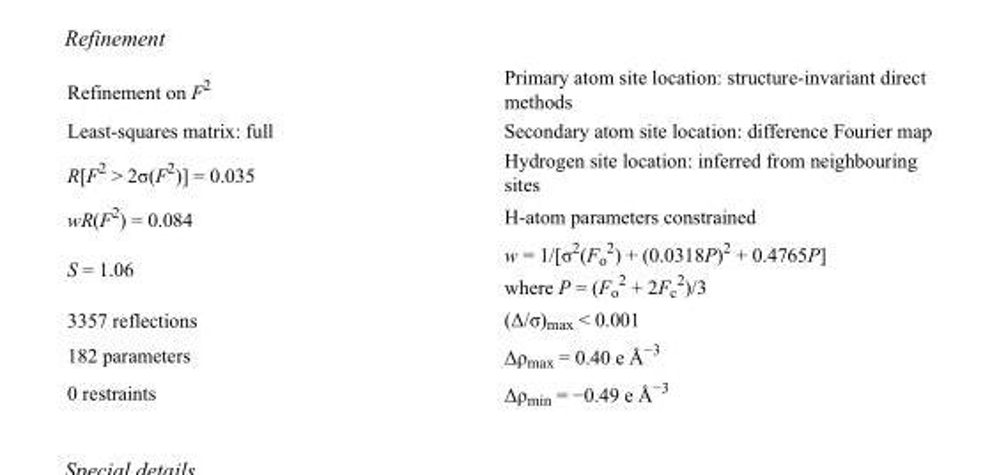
<table><tbody><tr><td>Refinement on F<sup>2</sup></td><td>Primary atom site location: structure-invariant direct methods</td></tr><tr><td>Least-squares matrix: full</td><td>Secondary atom site location: difference Fourier map</td></tr><tr><td>R[F<sup>2</sup> &gt; 2σ(F<sup>2</sup>)] = 0.035</td><td>Hydrogen site location: inferred from neighbouring sites</td></tr><tr><td>wR(F<sup>2</sup>) = 0.084</td><td>H-atom parameters constrained</td></tr><tr><td>S = 1.06</td><td>w = 1/[σ<sup>2</sup>(F<sub>o</sub> <sup>2</sup>) + (0.0318P)<sup>2</sup> + 0.4765P] where P = (F<sub>o</sub> <sup>2</sup> + 2F<sub>c</sub> <sup>2</sup>)/3</td></tr><tr><td>3357 reflections</td><td>(Δ/σ)<sub>max</sub> &lt; 0.001</td></tr><tr><td>182 parameters</td><td>Δρ<sub>max</sub> = 0.40 e Å<sup>−3</sup></td></tr><tr><td>0 restraints</td><td>Δρ<sub>min</sub> = −0.49 e Å<sup>−3</sup></td></tr></tbody></table>